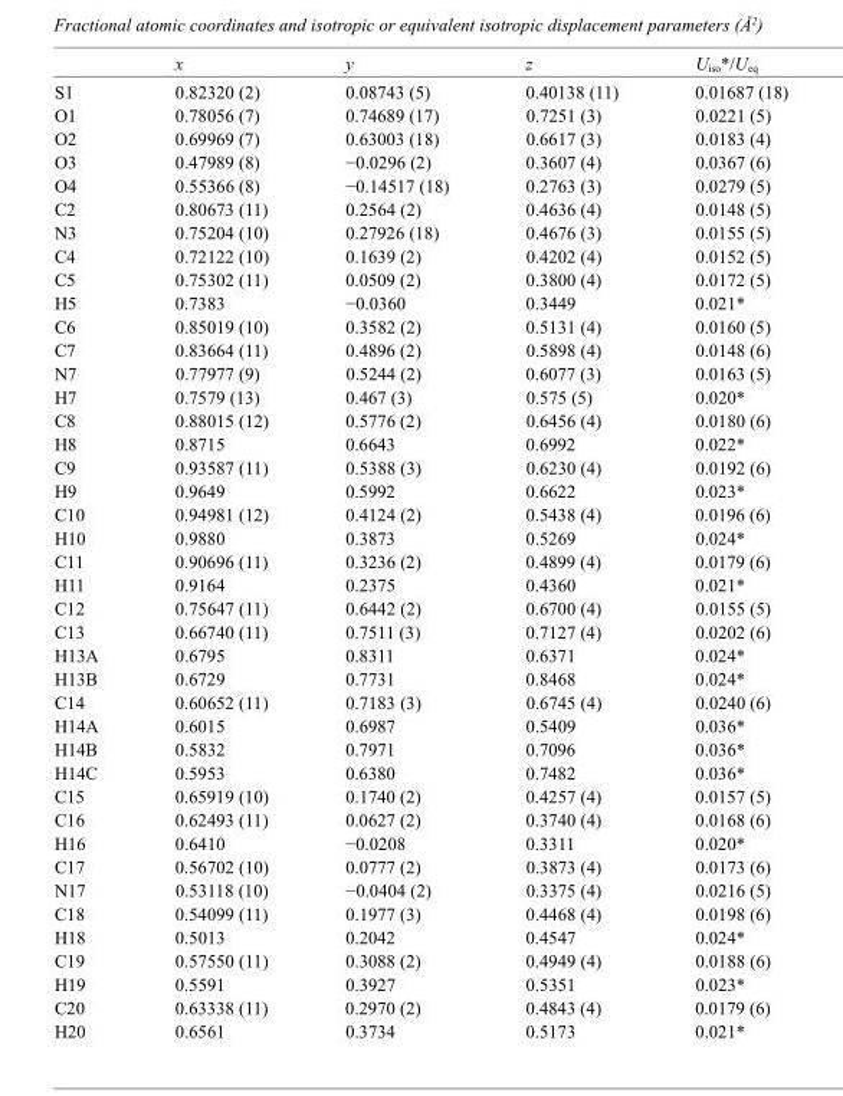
<table><thead><tr><td></td><td>x</td><td>y</td><td>z</td><td>U<sub>iso</sub>*/U<sub>eq</sub></td></tr></thead><tbody><tr><td>S1</td><td>0.82320 (2)</td><td>0.08743 (5)</td><td>0.40138 (11)</td><td>0.01687 (18)</td></tr><tr><td>O1</td><td>0.78056 (7)</td><td>0.74689 (17)</td><td>0.7251 (3)</td><td>0.0221 (5)</td></tr><tr><td>O2</td><td>0.69969 (7)</td><td>0.63003 (18)</td><td>0.6617 (3)</td><td>0.0183 (4)</td></tr><tr><td>O3</td><td>0.47989 (8)</td><td>−0.0296 (2)</td><td>0.3607 (4)</td><td>0.0367 (6)</td></tr><tr><td>O4</td><td>0.55366 (8)</td><td>−0.14517 (18)</td><td>0.2763 (3)</td><td>0.0279 (5)</td></tr><tr><td>C2</td><td>0.80673 (11)</td><td>0.2564 (2)</td><td>0.4636 (4)</td><td>0.0148 (5)</td></tr><tr><td>N3</td><td>0.75204 (10)</td><td>0.27926 (18)</td><td>0.4676 (3)</td><td>0.0155 (5)</td></tr><tr><td>C4</td><td>0.72122 (10)</td><td>0.1639 (2)</td><td>0.4202 (4)</td><td>0.0152 (5)</td></tr><tr><td>C5</td><td>0.75302 (11)</td><td>0.0509 (2)</td><td>0.3800 (4)</td><td>0.0172 (5)</td></tr><tr><td>H5</td><td>0.7383</td><td>−0.0360</td><td>0.3449</td><td>0.021*</td></tr><tr><td>C6</td><td>0.85019 (10)</td><td>0.3582 (2)</td><td>0.5131 (4)</td><td>0.0160 (5)</td></tr><tr><td>C7</td><td>0.83664 (11)</td><td>0.4896 (2)</td><td>0.5898 (4)</td><td>0.0148 (6)</td></tr><tr><td>N7</td><td>0.77977 (9)</td><td>0.5244 (2)</td><td>0.6077 (3)</td><td>0.0163 (5)</td></tr><tr><td>H7</td><td>0.7579 (13)</td><td>0.467 (3)</td><td>0.575 (5)</td><td>0.020*</td></tr><tr><td>C8</td><td>0.88015 (12)</td><td>0.5776 (2)</td><td>0.6456 (4)</td><td>0.0180 (6)</td></tr><tr><td>H8</td><td>0.8715</td><td>0.6643</td><td>0.6992</td><td>0.022*</td></tr><tr><td>C9</td><td>0.93587 (11)</td><td>0.5388 (3)</td><td>0.6230 (4)</td><td>0.0192 (6)</td></tr><tr><td>H9</td><td>0.9649</td><td>0.5992</td><td>0.6622</td><td>0.023*</td></tr><tr><td>C10</td><td>0.94981 (12)</td><td>0.4124 (2)</td><td>0.5438 (4)</td><td>0.0196 (6)</td></tr><tr><td>H10</td><td>0.9880</td><td>0.3873</td><td>0.5269</td><td>0.024*</td></tr><tr><td>C11</td><td>0.90696 (11)</td><td>0.3236 (2)</td><td>0.4899 (4)</td><td>0.0179 (6)</td></tr><tr><td>H11</td><td>0.9164</td><td>0.2375</td><td>0.4360</td><td>0.021*</td></tr><tr><td>C12</td><td>0.75647 (11)</td><td>0.6442 (2)</td><td>0.6700 (4)</td><td>0.0155 (5)</td></tr><tr><td>C13</td><td>0.66740 (11)</td><td>0.7511 (3)</td><td>0.7127 (4)</td><td>0.0202 (6)</td></tr><tr><td>H13A</td><td>0.6795</td><td>0.8311</td><td>0.6371</td><td>0.024*</td></tr><tr><td>H13B</td><td>0.6729</td><td>0.7731</td><td>0.8468</td><td>0.024*</td></tr><tr><td>C14</td><td>0.60652 (11)</td><td>0.7183 (3)</td><td>0.6745 (4)</td><td>0.0240 (6)</td></tr><tr><td>H14A</td><td>0.6015</td><td>0.6987</td><td>0.5409</td><td>0.036*</td></tr><tr><td>H14B</td><td>0.5832</td><td>0.7971</td><td>0.7096</td><td>0.036*</td></tr><tr><td>H14C</td><td>0.5953</td><td>0.6380</td><td>0.7482</td><td>0.036*</td></tr><tr><td>C15</td><td>0.65919 (10)</td><td>0.1740 (2)</td><td>0.4257 (4)</td><td>0.0157 (5)</td></tr><tr><td>C16</td><td>0.62493 (11)</td><td>0.0627 (2)</td><td>0.3740 (4)</td><td>0.0168 (6)</td></tr><tr><td>H16</td><td>0.6410</td><td>−0.0208</td><td>0.3311</td><td>0.020*</td></tr><tr><td>C17</td><td>0.56702 (10)</td><td>0.0777 (2)</td><td>0.3873 (4)</td><td>0.0173 (6)</td></tr><tr><td>N17</td><td>0.53118 (10)</td><td>−0.0404 (2)</td><td>0.3375 (4)</td><td>0.0216 (5)</td></tr><tr><td>C18</td><td>0.54099 (11)</td><td>0.1977 (3)</td><td>0.4468 (4)</td><td>0.0198 (6)</td></tr><tr><td>H18</td><td>0.5013</td><td>0.2042</td><td>0.4547</td><td>0.024*</td></tr><tr><td>C19</td><td>0.57550 (11)</td><td>0.3088 (2)</td><td>0.4949 (4)</td><td>0.0188 (6)</td></tr><tr><td>H19</td><td>0.5591</td><td>0.3927</td><td>0.5351</td><td>0.023*</td></tr><tr><td>C20</td><td>0.63338 (11)</td><td>0.2970 (2)</td><td>0.4843 (4)</td><td>0.0179 (6)</td></tr><tr><td>H20</td><td>0.6561</td><td>0.3734</td><td>0.5173</td><td>0.021*</td></tr></tbody></table>